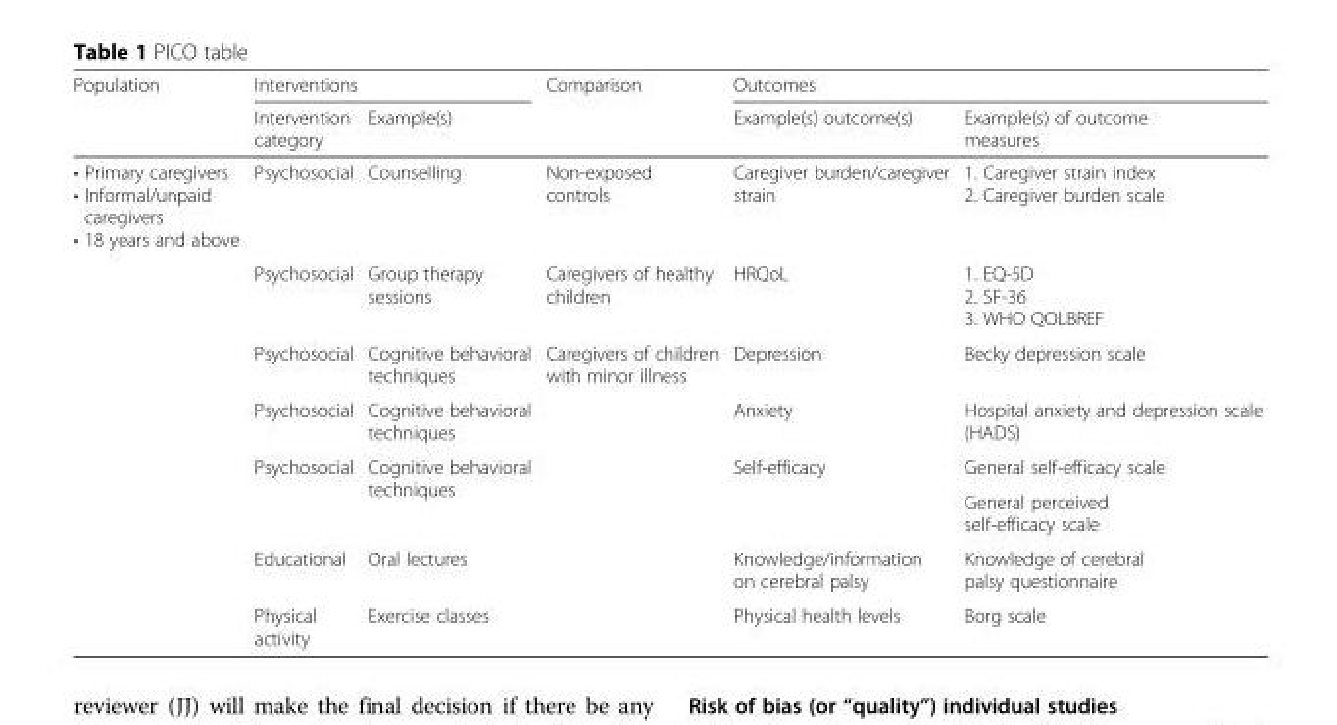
<table><thead><tr><td rowspan="2">Population</td><td colspan="2">Interventions</td><td rowspan="2">Comparison</td><td colspan="2">Outcomes</td></tr><tr><td>Intervention category</td><td>Example(s)</td><td>Example(s) outcome(s)</td><td>Example(s) of outcome measures</td></tr></thead><tbody><tr><td rowspan="8">• Primary caregivers • Informal/unpaid caregivers • 18 years and above</td><td>Psychosocial</td><td>Counselling</td><td>Non-exposed controls</td><td>Caregiver burden/caregiver strain</td><td>1. Caregiver strain index 2. Caregiver burden scale</td></tr><tr><td>Psychosocial</td><td>Group therapy sessions</td><td>Caregivers of healthy children</td><td>HRQoL</td><td>1. EQ-5D 2. SF-36 3. WHO QOLBREF</td></tr><tr><td>Psychosocial</td><td>Cognitive behavioral techniques</td><td>Caregivers of children with minor illness</td><td>Depression</td><td>Becky depression scale</td></tr><tr><td>Psychosocial</td><td>Cognitive behavioral techniques</td><td></td><td>Anxiety</td><td>Hospital anxiety and depression scale (HADS)</td></tr><tr><td rowspan="2">Psychosocial</td><td rowspan="2">Cognitive behavioral techniques</td><td rowspan="2"></td><td rowspan="2">Self-efficacy</td><td>General self-efficacy scale</td></tr><tr><td>General perceived self-efficacy scale</td></tr><tr><td>Educational</td><td>Oral lectures</td><td></td><td>Knowledge/information on cerebral palsy</td><td>Knowledge of cerebral palsy questionnaire</td></tr><tr><td>Physical activity</td><td>Exercise classes</td><td></td><td>Physical health levels</td><td>Borg scale</td></tr></tbody></table>